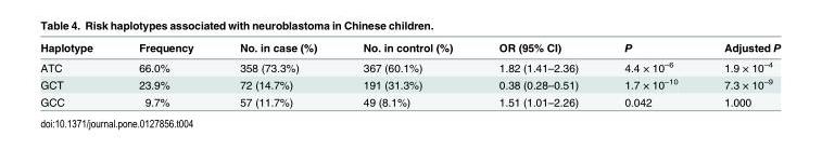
<table><thead><tr><td>Haplotype</td><td>Frequency</td><td>No. in case (%)</td><td>No. in control (%)</td><td>OR (95% CI)</td><td>P</td><td>Adjusted P</td></tr></thead><tbody><tr><td>ATC</td><td>66.0%</td><td>358 (73.3%)</td><td>367 (60.1%)</td><td>1.82 (1.41–2.36)</td><td>4.4 × 10<sup>–6</sup></td><td>1.9 × 10<sup>–4</sup></td></tr><tr><td>GCT</td><td>23.9%</td><td>72 (14.7%)</td><td>191 (31.3%)</td><td>0.38 (0.28–0.51)</td><td>1.7 × 10<sup>–10</sup></td><td>7.3 × 10<sup>–9</sup></td></tr><tr><td>GCC</td><td>9.7%</td><td>57 (11.7%)</td><td>49 (8.1%)</td><td>1.51 (1.01–2.26)</td><td>0.042</td><td>1.000</td></tr></tbody></table>